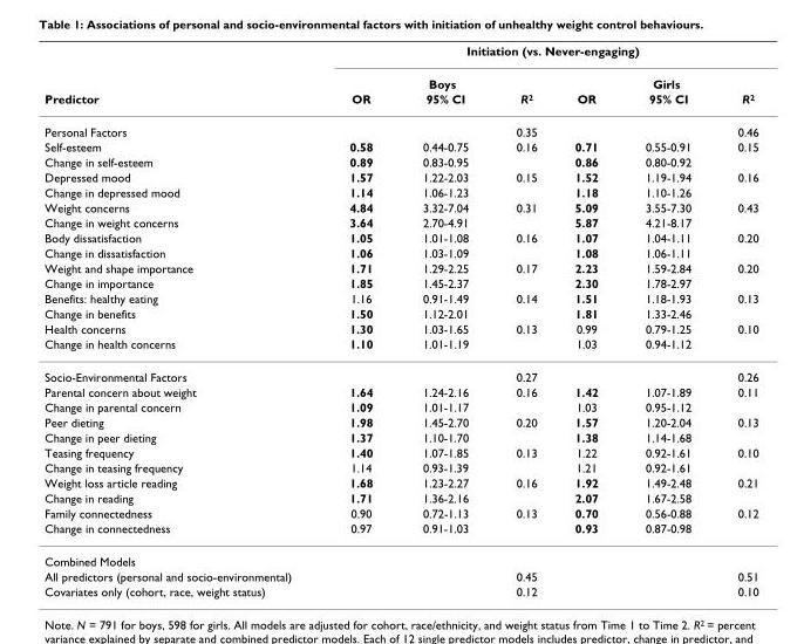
<table><thead><tr><td rowspan="3">Predictor</td><td colspan="6">Initiation (vs. Never-engaging)</td></tr><tr><td colspan="3">Boys</td><td colspan="3">Girls</td></tr><tr><td>OR</td><td>95% CI</td><td>R<sup>2</sup></td><td>OR</td><td>95% CI</td><td>R<sup>2</sup></td></tr></thead><tbody><tr><td>Personal Factors</td><td></td><td></td><td>0.35</td><td></td><td></td><td>0.46</td></tr><tr><td>Self-esteem</td><td>0.58</td><td>0.44-0.75</td><td>0.16</td><td>0.71</td><td>0.55-0.91</td><td>0.15</td></tr><tr><td>Change in self-esteem</td><td>0.89</td><td>0.83-0.95</td><td></td><td>0.86</td><td>0.80-0.92</td><td></td></tr><tr><td>Depressed mood</td><td>1.57</td><td>1.22-2.03</td><td>0.15</td><td>1.52</td><td>1.19-1.94</td><td>0.16</td></tr><tr><td>Change in depressed mood</td><td>1.14</td><td>1.06-1.23</td><td></td><td>1.18</td><td>1.10-1.26</td><td></td></tr><tr><td>Weight concerns</td><td>4.84</td><td>3.32-7.04</td><td>0.31</td><td>5.09</td><td>3.55-7.30</td><td>0.43</td></tr><tr><td>Change in weight concerns</td><td>3.64</td><td>2.70-4.91</td><td></td><td>5.87</td><td>4.21-8.17</td><td></td></tr><tr><td>Body dissatisfaction</td><td>1.05</td><td>1.01-1.08</td><td>0.16</td><td>1.07</td><td>1.04-1.11</td><td>0.20</td></tr><tr><td>Change in dissatisfaction</td><td>1.06</td><td>1.03-1.09</td><td></td><td>1.08</td><td>1.06-1.11</td><td></td></tr><tr><td>Weight and shape importance</td><td>1.71</td><td>1.29-2.25</td><td>0.17</td><td>2.23</td><td>1.59-2.84</td><td>0.20</td></tr><tr><td>Change in importance</td><td>1.85</td><td>1.45-2.37</td><td></td><td>2.30</td><td>1.78-2.97</td><td></td></tr><tr><td>Benefits: healthy eating</td><td>1.16</td><td>0.91-1.49</td><td>0.14</td><td>1.51</td><td>1.18-1.93</td><td>0.13</td></tr><tr><td>Change in benefits</td><td>1.50</td><td>1.12-2.01</td><td></td><td>1.81</td><td>1.33-2.46</td><td></td></tr><tr><td>Health concerns</td><td>1.30</td><td>1.03-1.65</td><td>0.13</td><td>0.99</td><td>0.79-1.25</td><td>0.10</td></tr><tr><td>Change in health concerns</td><td>1.10</td><td>1.01-1.19</td><td></td><td>1.03</td><td>0.94-1.12</td><td></td></tr><tr><td>Socio-Environmental Factors</td><td></td><td></td><td>0.27</td><td></td><td></td><td>0.26</td></tr><tr><td>Parental concern about weight</td><td>1.64</td><td>1.24-2.16</td><td>0.16</td><td>1.42</td><td>1.07-1.89</td><td>0.11</td></tr><tr><td>Change in parental concern</td><td>1.09</td><td>1.01-1.17</td><td></td><td>1.03</td><td>0.95-1.12</td><td></td></tr><tr><td>Peer dieting</td><td>1.98</td><td>1.45-2.70</td><td>0.20</td><td>1.57</td><td>1.20-2.04</td><td>0.13</td></tr><tr><td>Change in peer dieting</td><td>1.37</td><td>1.10-1.70</td><td></td><td>1.38</td><td>1.14-1.68</td><td></td></tr><tr><td>Teasing frequency</td><td>1.40</td><td>1.07-1.85</td><td>0.13</td><td>1.22</td><td>0.92-1.61</td><td>0.10</td></tr><tr><td>Change in teasing frequency</td><td>1.14</td><td>0.93-1.39</td><td></td><td>1.21</td><td>0.92-1.61</td><td></td></tr><tr><td>Weight loss article reading</td><td>1.68</td><td>1.23-2.27</td><td>0.16</td><td>1.92</td><td>1.49-2.48</td><td>0.21</td></tr><tr><td>Change in reading</td><td>1.71</td><td>1.36-2.16</td><td></td><td>2.07</td><td>1.67-2.58</td><td></td></tr><tr><td>Family connectedness</td><td>0.90</td><td>0.72-1.13</td><td>0.13</td><td>0.70</td><td>0.56-0.88</td><td>0.12</td></tr><tr><td>Change in connectedness</td><td>0.97</td><td>0.91-1.03</td><td></td><td>0.93</td><td>0.87-0.98</td><td></td></tr><tr><td colspan="7">Combined Models</td></tr><tr><td colspan="3">All predictors (personal and socio-environmental)</td><td>0.45</td><td></td><td></td><td>0.51</td></tr><tr><td colspan="3">Covariates only (cohort, race, weight status)</td><td>0.12</td><td></td><td></td><td>0.10</td></tr></tbody></table>